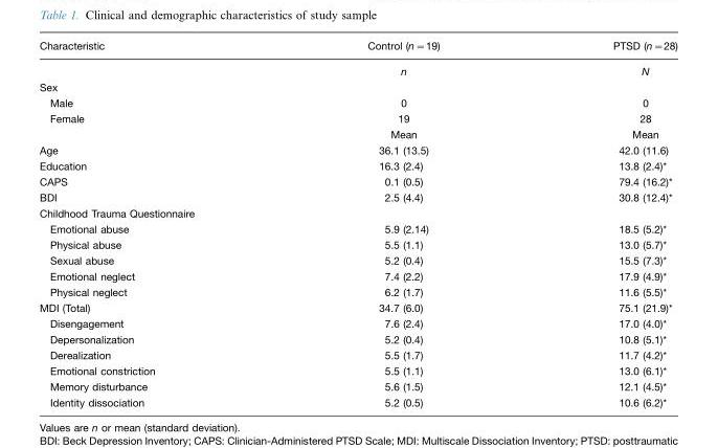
<table><thead><tr><td>Characteristic</td><td>Control (n=19)</td><td>PTSD (n=28)</td></tr></thead><tbody><tr><td></td><td>n</td><td>N</td></tr><tr><td colspan="3">Sex</td></tr><tr><td>Male</td><td>0</td><td>0</td></tr><tr><td rowspan="2">Female</td><td>19</td><td>28</td></tr><tr><td>Mean</td><td>Mean</td></tr><tr><td>Age</td><td>36.1 (13.5)</td><td>42.0 (11.6)</td></tr><tr><td>Education</td><td>16.3 (2.4)</td><td>13.8 (2.4)*</td></tr><tr><td>CAPS</td><td>0.1 (0.5)</td><td>79.4 (16.2)*</td></tr><tr><td>BDI</td><td>2.5 (4.4)</td><td>30.8 (12.4)*</td></tr><tr><td colspan="3">Childhood Trauma Questionnaire</td></tr><tr><td>Emotional abuse</td><td>5.9 (2.14)</td><td>18.5 (5.2)*</td></tr><tr><td>Physical abuse</td><td>5.5 (1.1)</td><td>13.0 (5.7)*</td></tr><tr><td>Sexual abuse</td><td>5.2 (0.4)</td><td>15.5 (7.3)*</td></tr><tr><td>Emotional neglect</td><td>7.4 (2.2)</td><td>17.9 (4.9)*</td></tr><tr><td>Physical neglect</td><td>6.2 (1.7)</td><td>11.6 (5.5)*</td></tr><tr><td>MDI (Total)</td><td>34.7 (6.0)</td><td>75.1 (21.9)*</td></tr><tr><td>Disengagement</td><td>7.6 (2.4)</td><td>17.0 (4.0)*</td></tr><tr><td>Depersonalization</td><td>5.2 (0.4)</td><td>10.8 (5.1)*</td></tr><tr><td>Derealization</td><td>5.5 (1.7)</td><td>11.7 (4.2)*</td></tr><tr><td>Emotional constriction</td><td>5.5 (1.1)</td><td>13.0 (6.1)*</td></tr><tr><td>Memory disturbance</td><td>5.6 (1.5)</td><td>12.1 (4.5)*</td></tr><tr><td>Identity dissociation</td><td>5.2 (0.5)</td><td>10.6 (6.2)*</td></tr></tbody></table>